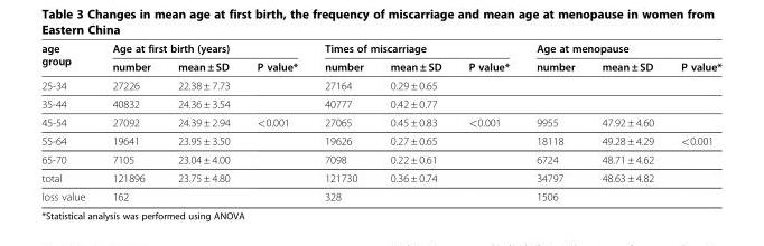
<table><thead><tr><td rowspan="2">age group</td><td colspan="3">Age at first birth (years)</td><td colspan="3">Times of miscarriage</td><td colspan="3">Age at menopause</td></tr><tr><td>number</td><td>mean ± SD</td><td>P value*</td><td>number</td><td>mean ± SD</td><td>P value*</td><td>number</td><td>mean ± SD</td><td>P value*</td></tr></thead><tbody><tr><td>25-34</td><td>27226</td><td>22.38 ± 7.73</td><td></td><td>27164</td><td>0.29 ± 0.65</td><td></td><td></td><td></td><td></td></tr><tr><td>35-44</td><td>40832</td><td>24.36 ± 3.54</td><td></td><td>40777</td><td>0.42 ± 0.77</td><td></td><td></td><td></td><td></td></tr><tr><td>45-54</td><td>27092</td><td>24.39 ± 2.94</td><td>&lt;0.001</td><td>27065</td><td>0.45 ± 0.83</td><td>&lt;0.001</td><td>9955</td><td>47.92 ± 4.60</td><td></td></tr><tr><td>55-64</td><td>19641</td><td>23.95 ± 3.50</td><td></td><td>19626</td><td>0.27 ± 0.65</td><td></td><td>18118</td><td>49.28 ± 4.29</td><td>&lt;0.001</td></tr><tr><td>65-70</td><td>7105</td><td>23.04 ± 4.00</td><td></td><td>7098</td><td>0.22 ± 0.61</td><td></td><td>6724</td><td>48.71 ± 4.62</td><td></td></tr><tr><td>total</td><td>121896</td><td>23.75 ± 4.80</td><td></td><td>121730</td><td>0.36 ± 0.74</td><td></td><td>34797</td><td>48.63 ± 4.82</td><td></td></tr><tr><td>loss value</td><td>162</td><td></td><td></td><td>328</td><td></td><td></td><td>1506</td><td></td><td></td></tr></tbody></table>